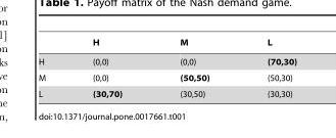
<table><thead><tr><td></td><td>H</td><td>M</td><td>L</td></tr></thead><tbody><tr><td>H</td><td>(0,0)</td><td>(0,0)</td><td>(70,30)</td></tr><tr><td>M</td><td>(0,0)</td><td>(50,50)</td><td>(50,30)</td></tr><tr><td>L</td><td>(30,70)</td><td>(30,50)</td><td>(30,30)</td></tr></tbody></table>